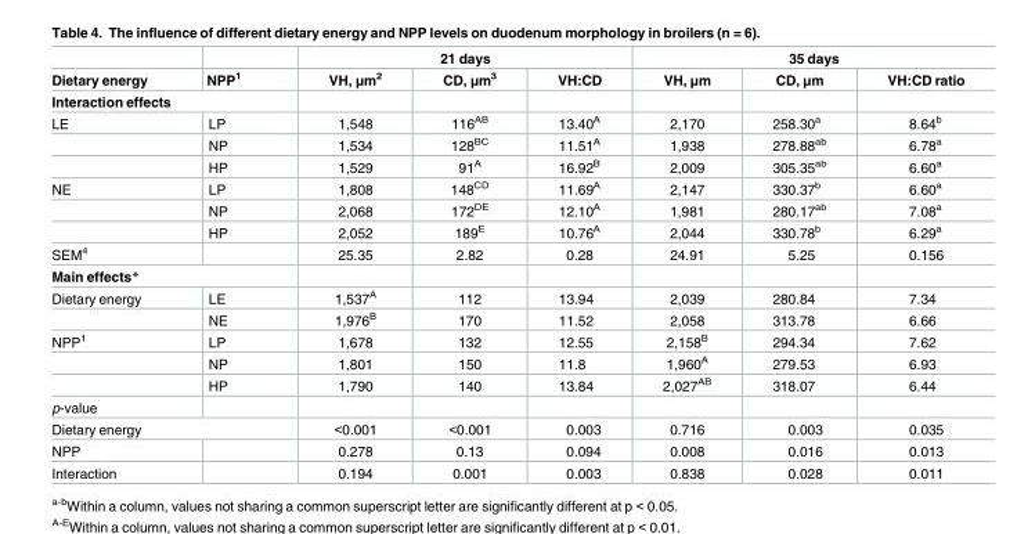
<table><thead><tr><td rowspan="2">Dietary energy</td><td rowspan="2">NPP<sup>1</sup></td><td colspan="3">21 days</td><td colspan="3">35 days</td></tr><tr><td>VH, μm<sup>2</sup></td><td>CD, μm<sup>3</sup></td><td>VH:CD</td><td>VH, μm</td><td>CD, μm</td><td>VH:CD ratio</td></tr></thead><tbody><tr><td colspan="8">Interaction effects</td></tr><tr><td rowspan="3">LE</td><td>LP</td><td>1,548</td><td>116<sup>AB</sup></td><td>13.40<sup>A</sup></td><td>2,170</td><td>258.30<sup>a</sup></td><td>8.64<sup>b</sup></td></tr><tr><td>NP</td><td>1,534</td><td>128<sup>BC</sup></td><td>11.51<sup>A</sup></td><td>1,938</td><td>278.88<sup>ab</sup></td><td>6.78<sup>a</sup></td></tr><tr><td>HP</td><td>1,529</td><td>91<sup>A</sup></td><td>16.92<sup>B</sup></td><td>2,009</td><td>305.35<sup>ab</sup></td><td>6.60<sup>a</sup></td></tr><tr><td rowspan="3">NE</td><td>LP</td><td>1,808</td><td>148<sup>CD</sup></td><td>11.69<sup>A</sup></td><td>2,147</td><td>330.37<sup>b</sup></td><td>6.60<sup>a</sup></td></tr><tr><td>NP</td><td>2,068</td><td>172<sup>DE</sup></td><td>12.10<sup>A</sup></td><td>1,981</td><td>280.17<sup>ab</sup></td><td>7.08<sup>a</sup></td></tr><tr><td>HP</td><td>2,052</td><td>189<sup>E</sup></td><td>10.76<sup>A</sup></td><td>2,044</td><td>330.78<sup>b</sup></td><td>6.29<sup>a</sup></td></tr><tr><td>SEM<sup>4</sup></td><td></td><td>25.35</td><td>2.82</td><td>0.28</td><td>24.91</td><td>5.25</td><td>0.156</td></tr><tr><td colspan="8">Main effects*</td></tr><tr><td rowspan="2">Dietary energy</td><td>LE</td><td>1,537<sup>A</sup></td><td>112</td><td>13.94</td><td>2,039</td><td>280.84</td><td>7.34</td></tr><tr><td>NE</td><td>1,976<sup>B</sup></td><td>170</td><td>11.52</td><td>2,058</td><td>313.78</td><td>6.66</td></tr><tr><td rowspan="3">NPP<sup>1</sup></td><td>LP</td><td>1,678</td><td>132</td><td>12.55</td><td>2,158<sup>B</sup></td><td>294.34</td><td>7.62</td></tr><tr><td>NP</td><td>1,801</td><td>150</td><td>11.8</td><td>1,960<sup>A</sup></td><td>279.53</td><td>6.93</td></tr><tr><td>HP</td><td>1,790</td><td>140</td><td>13.84</td><td>2,027<sup>AB</sup></td><td>318.07</td><td>6.44</td></tr><tr><td colspan="8">p-value</td></tr><tr><td colspan="2">Dietary energy</td><td>&lt;0.001</td><td>&lt;0.001</td><td>0.003</td><td>0.716</td><td>0.003</td><td>0.035</td></tr><tr><td>NPP</td><td></td><td>0.278</td><td>0.13</td><td>0.094</td><td>0.008</td><td>0.016</td><td>0.013</td></tr><tr><td>Interaction</td><td></td><td>0.194</td><td>0.001</td><td>0.003</td><td>0.838</td><td>0.028</td><td>0.011</td></tr></tbody></table>